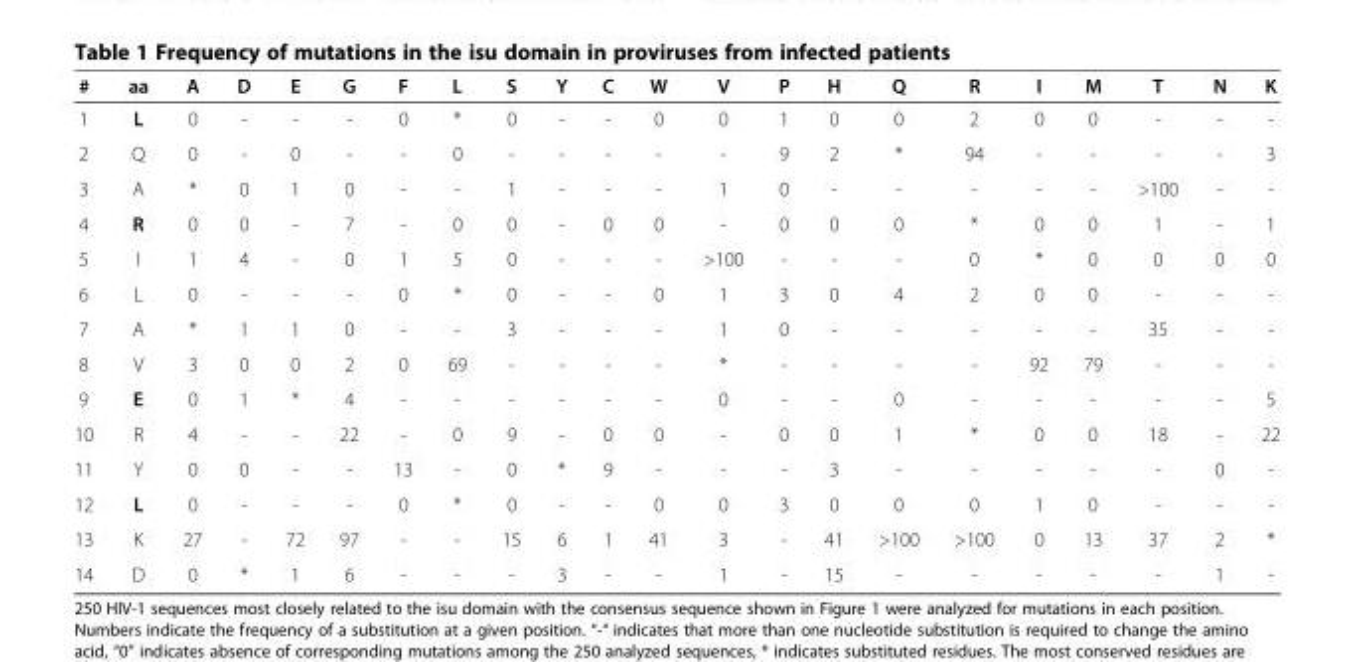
<table><thead><tr><td>#</td><td>aa</td><td>A</td><td>D</td><td>E</td><td>G</td><td>F</td><td>L</td><td>S</td><td>Y</td><td>C</td><td>W</td><td>V</td><td>P</td><td>H</td><td>Q</td><td>R</td><td>I</td><td>M</td><td>T</td><td>N</td><td>K</td></tr></thead><tbody><tr><td>1</td><td>L</td><td>0</td><td>-</td><td>-</td><td>-</td><td>0</td><td>*</td><td>0</td><td>-</td><td>-</td><td>0</td><td>0</td><td>1</td><td>0</td><td>0</td><td>2</td><td>0</td><td>0</td><td>-</td><td>-</td><td>-</td></tr><tr><td>2</td><td>Q</td><td>0</td><td>-</td><td>0</td><td>-</td><td>-</td><td>0</td><td>-</td><td>-</td><td>-</td><td>-</td><td>-</td><td>9</td><td>2</td><td>*</td><td>94</td><td>-</td><td>-</td><td>-</td><td>-</td><td>3</td></tr><tr><td>3</td><td>A</td><td>*</td><td>0</td><td>1</td><td>0</td><td>-</td><td>-</td><td>1</td><td>-</td><td>-</td><td>-</td><td>1</td><td>0</td><td>-</td><td>-</td><td>-</td><td>-</td><td>-</td><td>&gt;100</td><td>-</td><td>-</td></tr><tr><td>4</td><td>R</td><td>0</td><td>0</td><td>-</td><td>7</td><td>-</td><td>0</td><td>0</td><td>-</td><td>0</td><td>0</td><td>-</td><td>0</td><td>0</td><td>0</td><td>*</td><td>0</td><td>0</td><td>1</td><td>-</td><td>1</td></tr><tr><td>5</td><td>I</td><td>1</td><td>4</td><td>-</td><td>0</td><td>1</td><td>5</td><td>0</td><td>-</td><td>-</td><td>-</td><td>&gt;100</td><td>-</td><td>-</td><td>-</td><td>0</td><td>*</td><td>0</td><td>0</td><td>0</td><td>0</td></tr><tr><td>6</td><td>L</td><td>0</td><td>-</td><td>-</td><td>-</td><td>0</td><td>*</td><td>0</td><td>-</td><td>-</td><td>0</td><td>1</td><td>3</td><td>0</td><td>4</td><td>2</td><td>0</td><td>0</td><td>-</td><td>-</td><td>-</td></tr><tr><td>7</td><td>A</td><td>*</td><td>1</td><td>1</td><td>0</td><td>-</td><td>-</td><td>3</td><td>-</td><td>-</td><td>-</td><td>1</td><td>0</td><td>-</td><td>-</td><td>-</td><td>-</td><td>-</td><td>35</td><td>-</td><td>-</td></tr><tr><td>8</td><td>V</td><td>3</td><td>0</td><td>0</td><td>2</td><td>0</td><td>69</td><td>-</td><td>-</td><td>-</td><td>-</td><td>*</td><td>-</td><td>-</td><td>-</td><td>-</td><td>92</td><td>79</td><td>-</td><td>-</td><td>-</td></tr><tr><td>9</td><td>E</td><td>0</td><td>1</td><td>*</td><td>4</td><td>-</td><td>-</td><td>-</td><td>-</td><td>-</td><td>-</td><td>0</td><td>-</td><td>-</td><td>0</td><td>-</td><td>-</td><td>-</td><td>-</td><td>-</td><td>5</td></tr><tr><td>10</td><td>R</td><td>4</td><td>-</td><td>-</td><td>22</td><td>-</td><td>0</td><td>9</td><td>-</td><td>0</td><td>0</td><td>-</td><td>0</td><td>0</td><td>1</td><td>*</td><td>0</td><td>0</td><td>18</td><td>-</td><td>22</td></tr><tr><td>11</td><td>Y</td><td>0</td><td>0</td><td>-</td><td>-</td><td>13</td><td>-</td><td>0</td><td>*</td><td>9</td><td>-</td><td>-</td><td>-</td><td>3</td><td>-</td><td>-</td><td>-</td><td>-</td><td>-</td><td>0</td><td>-</td></tr><tr><td>12</td><td>L</td><td>0</td><td>-</td><td>-</td><td>-</td><td>0</td><td>*</td><td>0</td><td>-</td><td>-</td><td>0</td><td>0</td><td>3</td><td>0</td><td>0</td><td>0</td><td>1</td><td>0</td><td>-</td><td>-</td><td>-</td></tr><tr><td>13</td><td>K</td><td>27</td><td>-</td><td>72</td><td>97</td><td>-</td><td>-</td><td>15</td><td>6</td><td>1</td><td>41</td><td>3</td><td>-</td><td>41</td><td>&gt;100</td><td>&gt;100</td><td>0</td><td>13</td><td>37</td><td>2</td><td>*</td></tr><tr><td>14</td><td>D</td><td>0</td><td>*</td><td>1</td><td>6</td><td>-</td><td>-</td><td>-</td><td>3</td><td>-</td><td>-</td><td>1</td><td>-</td><td>15</td><td>-</td><td>-</td><td>-</td><td>-</td><td>-</td><td>1</td><td>-</td></tr></tbody></table>